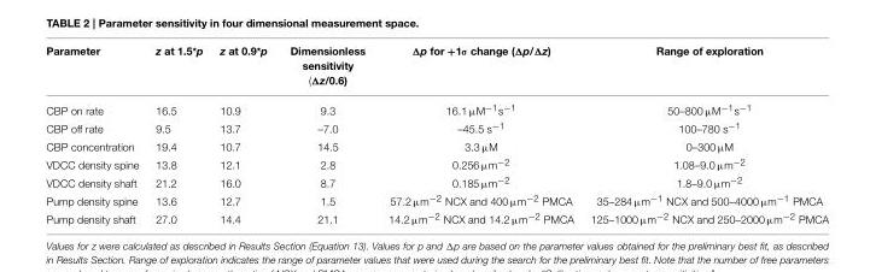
<table><thead><tr><td>Parameter</td><td>z at 1.5*p</td><td>z at 0.9*p</td><td>Dimensionless sensitivity (Δz/0.6)</td><td>Δp for +1σ change (Δp/Δz)</td><td>Range of exploration</td></tr></thead><tbody><tr><td>CBP on rate</td><td>16.5</td><td>10.9</td><td>9.3</td><td>16.1 µM<sup>−1</sup>s<sup>−1</sup></td><td>50–800 µM<sup>−1</sup>s<sup>−1</sup></td></tr><tr><td>CBP off rate</td><td>9.5</td><td>13.7</td><td>–7.0</td><td>–45.5 s<sup>−1</sup></td><td>100–780 s<sup>−1</sup></td></tr><tr><td>CBP concentration</td><td>19.4</td><td>10.7</td><td>14.5</td><td>3.3 µM</td><td>0–300 µM</td></tr><tr><td>VDCC density spine</td><td>13.8</td><td>12.1</td><td>2.8</td><td>0.256 µm<sup>−2</sup></td><td>1.08–9.0 µm<sup>−2</sup></td></tr><tr><td>VDCC density shaft</td><td>21.2</td><td>16.0</td><td>8.7</td><td>0.185 µm<sup>−2</sup></td><td>1.8–9.0 µm<sup>−2</sup></td></tr><tr><td>Pump density spine</td><td>13.6</td><td>12.7</td><td>1.5</td><td>57.2 µm<sup>−2</sup> NCX and 400 µm<sup>−2</sup> PMCA</td><td>35–284 µm<sup>−1</sup> NCX and 500–4000 µm<sup>−1</sup> PMCA</td></tr><tr><td>Pump density shaft</td><td>27.0</td><td>14.4</td><td>21.1</td><td>14.2 µm<sup>−2</sup> NCX and 14.2 µm<sup>−2</sup> PMCA</td><td>125–1000 µm<sup>−2</sup> NCX and 250–2000 µm<sup>−2</sup> PMCA</td></tr></tbody></table>